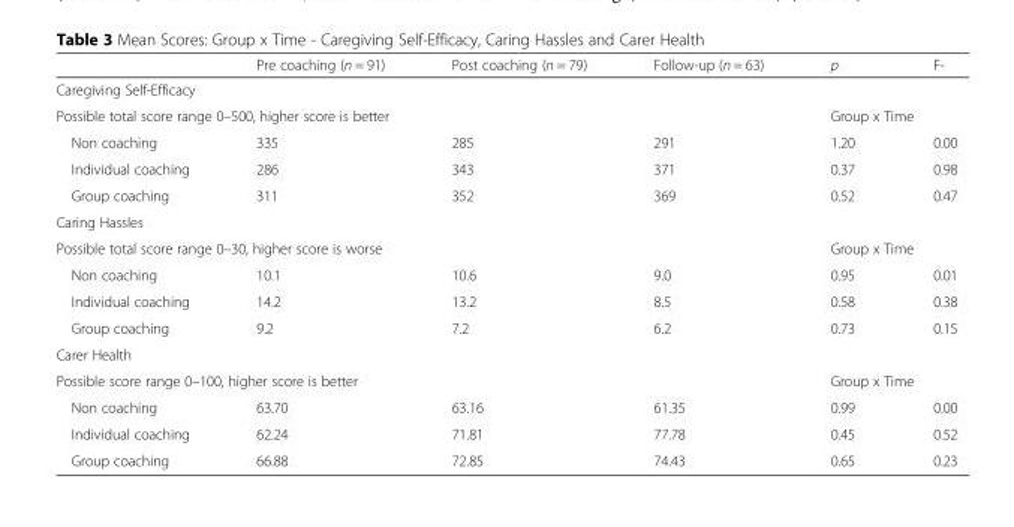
<table><thead><tr><td></td><td>Pre coaching (n = 91)</td><td>Post coaching (n = 79)</td><td>Follow-up (n = 63)</td><td>p</td><td>F-</td></tr></thead><tbody><tr><td colspan="6">Caregiving Self-Efficacy</td></tr><tr><td colspan="4">Possible total score range 0–500, higher score is better</td><td colspan="2">Group x Time</td></tr><tr><td>Non coaching</td><td>335</td><td>285</td><td>291</td><td>1.20</td><td>0.00</td></tr><tr><td>Individual coaching</td><td>286</td><td>343</td><td>371</td><td>0.37</td><td>0.98</td></tr><tr><td>Group coaching</td><td>311</td><td>352</td><td>369</td><td>0.52</td><td>0.47</td></tr><tr><td colspan="6">Caring Hassles</td></tr><tr><td colspan="4">Possible total score range 0–30, higher score is worse</td><td colspan="2">Group x Time</td></tr><tr><td>Non coaching</td><td>10.1</td><td>10.6</td><td>9.0</td><td>0.95</td><td>0.01</td></tr><tr><td>Individual coaching</td><td>14.2</td><td>13.2</td><td>8.5</td><td>0.58</td><td>0.38</td></tr><tr><td>Group coaching</td><td>9.2</td><td>7.2</td><td>6.2</td><td>0.73</td><td>0.15</td></tr><tr><td colspan="6">Carer Health</td></tr><tr><td colspan="4">Possible score range 0–100, higher score is better</td><td colspan="2">Group x Time</td></tr><tr><td>Non coaching</td><td>63.70</td><td>63.16</td><td>61.35</td><td>0.99</td><td>0.00</td></tr><tr><td>Individual coaching</td><td>62.24</td><td>71.81</td><td>77.78</td><td>0.45</td><td>0.52</td></tr><tr><td>Group coaching</td><td>66.88</td><td>72.85</td><td>74.43</td><td>0.65</td><td>0.23</td></tr></tbody></table>